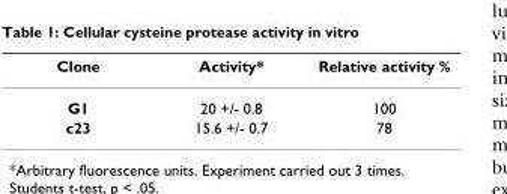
<table><thead><tr><td>Clone</td><td>Activity*</td><td>Relative activity %</td></tr></thead><tbody><tr><td>G1</td><td>20 +/- 0.8</td><td>100</td></tr><tr><td>c23</td><td>15.6 +/- 0.7</td><td>78</td></tr></tbody></table>